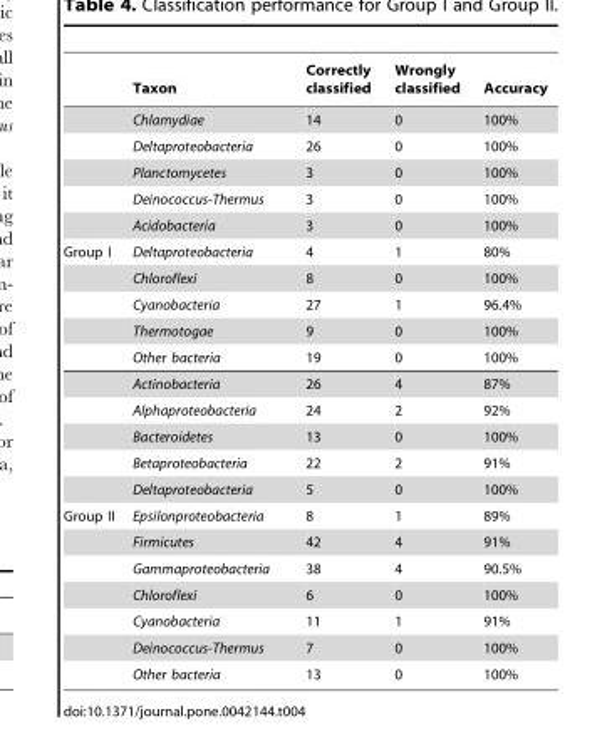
<table><thead><tr><td></td><td>Taxon</td><td>Correctly classified</td><td>Wrongly classified</td><td>Accuracy</td></tr></thead><tbody><tr><td></td><td>Chlamydiae</td><td>14</td><td>0</td><td>100%</td></tr><tr><td></td><td>Deltaproteobacteria</td><td>26</td><td>0</td><td>100%</td></tr><tr><td></td><td>Planctomycetes</td><td>3</td><td>0</td><td>100%</td></tr><tr><td></td><td>Deinococcus-Thermus</td><td>3</td><td>0</td><td>100%</td></tr><tr><td></td><td>Acidobacteria</td><td>3</td><td>0</td><td>100%</td></tr><tr><td rowspan="10">Group I</td><td>Deltaproteobacteria</td><td>4</td><td>1</td><td>80%</td></tr><tr><td>Chloroflexi</td><td>8</td><td>0</td><td>100%</td></tr><tr><td>Cyanobacteria</td><td>27</td><td>1</td><td>96.4%</td></tr><tr><td>Thermotogae</td><td>9</td><td>0</td><td>100%</td></tr><tr><td>Other bacteria</td><td>19</td><td>0</td><td>100%</td></tr><tr><td>Actinobacteria</td><td>26</td><td>4</td><td>87%</td></tr><tr><td>Alphaproteobacteria</td><td>24</td><td>2</td><td>92%</td></tr><tr><td>Bacteroidetes</td><td>13</td><td>0</td><td>100%</td></tr><tr><td>Betaproteobacteria</td><td>22</td><td>2</td><td>91%</td></tr><tr><td>Deltaproteobacteria</td><td>5</td><td>0</td><td>100%</td></tr><tr><td rowspan="7">Group II</td><td>Epsilonproteobacteria</td><td>8</td><td>1</td><td>89%</td></tr><tr><td>Firmicutes</td><td>42</td><td>4</td><td>91%</td></tr><tr><td>Gammaproteobacteria</td><td>38</td><td>4</td><td>90.5%</td></tr><tr><td>Chloroflexi</td><td>6</td><td>0</td><td>100%</td></tr><tr><td>Cyanobacteria</td><td>11</td><td>1</td><td>91%</td></tr><tr><td>Deinococcus-Thermus</td><td>7</td><td>0</td><td>100%</td></tr><tr><td>Other bacteria</td><td>13</td><td>0</td><td>100%</td></tr></tbody></table>